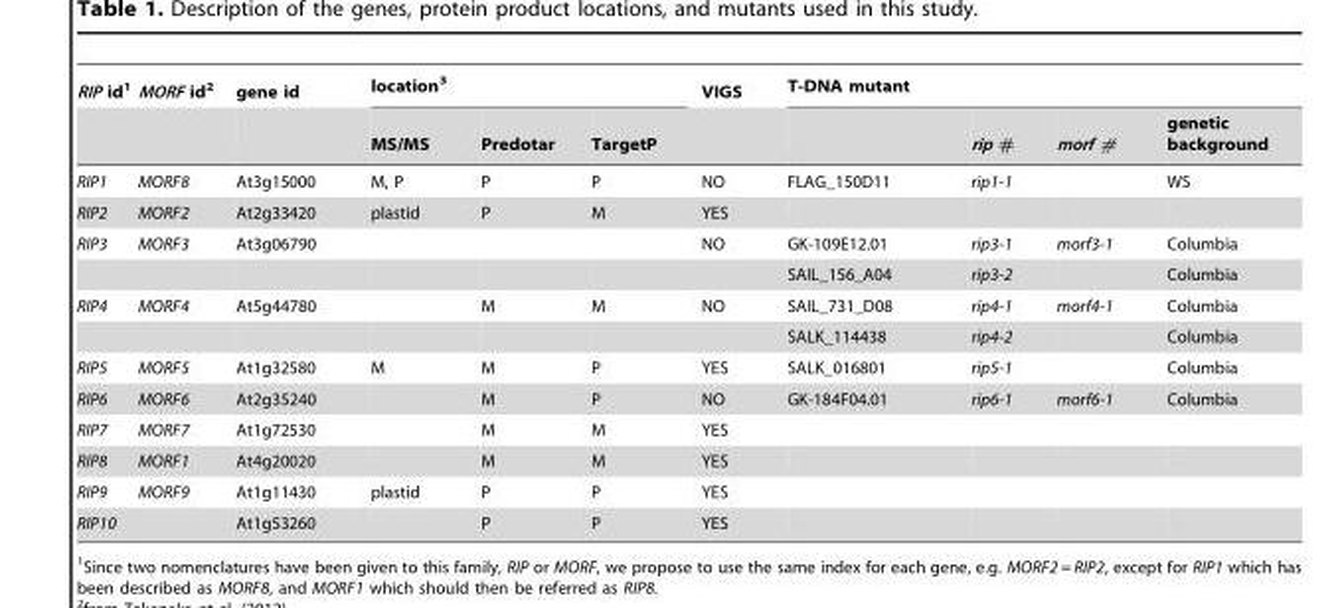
<table><thead><tr><td rowspan="2">RIP id<sup>1</sup></td><td rowspan="2">MORF id<sup>2</sup></td><td rowspan="2">gene id</td><td colspan="3">location<sup>3</sup></td><td rowspan="2">VIGS</td><td colspan="4">T-DNA mutant</td></tr><tr><td>MS/MS</td><td>Predotar</td><td>TargetP</td><td></td><td>rip #</td><td>morf #</td><td>genetic background</td></tr></thead><tbody><tr><td>RIP1</td><td>MORF8</td><td>At3g15000</td><td>M, P</td><td>P</td><td>P</td><td>NO</td><td>FLAG_150D11</td><td>rip1-1</td><td></td><td>WS</td></tr><tr><td>RIP2</td><td>MORF2</td><td>At2g33420</td><td>plastid</td><td>P</td><td>M</td><td>YES</td><td></td><td></td><td></td><td></td></tr><tr><td rowspan="2">RIP3</td><td>MORF3</td><td>At3g06790</td><td></td><td></td><td></td><td>NO</td><td>GK-109E12.01</td><td>rip3-1</td><td>morf3-1</td><td>Columbia</td></tr><tr><td></td><td></td><td></td><td></td><td></td><td></td><td>SAIL_156_A04</td><td>rip3-2</td><td></td><td>Columbia</td></tr><tr><td rowspan="2">RIP4</td><td>MORF4</td><td>At5g44780</td><td></td><td>M</td><td>M</td><td>NO</td><td>SAIL_731_D08</td><td>rip4-1</td><td>morf4-1</td><td>Columbia</td></tr><tr><td></td><td></td><td></td><td></td><td></td><td></td><td>SALK_114438</td><td>rip4-2</td><td></td><td>Columbia</td></tr><tr><td>RIP5</td><td>MORF5</td><td>At1g32580</td><td>M</td><td>M</td><td>P</td><td>YES</td><td>SALK_016801</td><td>rip5-1</td><td></td><td>Columbia</td></tr><tr><td>RIP6</td><td>MORF6</td><td>At2g35240</td><td></td><td>M</td><td>P</td><td>NO</td><td>GK-184F04.01</td><td>rip6-1</td><td>morf6-1</td><td>Columbia</td></tr><tr><td>RIP7</td><td>MORF7</td><td>At1g72530</td><td></td><td>M</td><td>M</td><td>YES</td><td></td><td></td><td></td><td></td></tr><tr><td>RIP8</td><td>MORF1</td><td>At4g20020</td><td></td><td>M</td><td>M</td><td>YES</td><td></td><td></td><td></td><td></td></tr><tr><td>RIP9</td><td>MORF9</td><td>At1g11430</td><td>plastid</td><td>P</td><td>P</td><td>YES</td><td></td><td></td><td></td><td></td></tr><tr><td>RIP10</td><td></td><td>At1g53260</td><td></td><td>P</td><td>P</td><td>YES</td><td></td><td></td><td></td><td></td></tr></tbody></table>